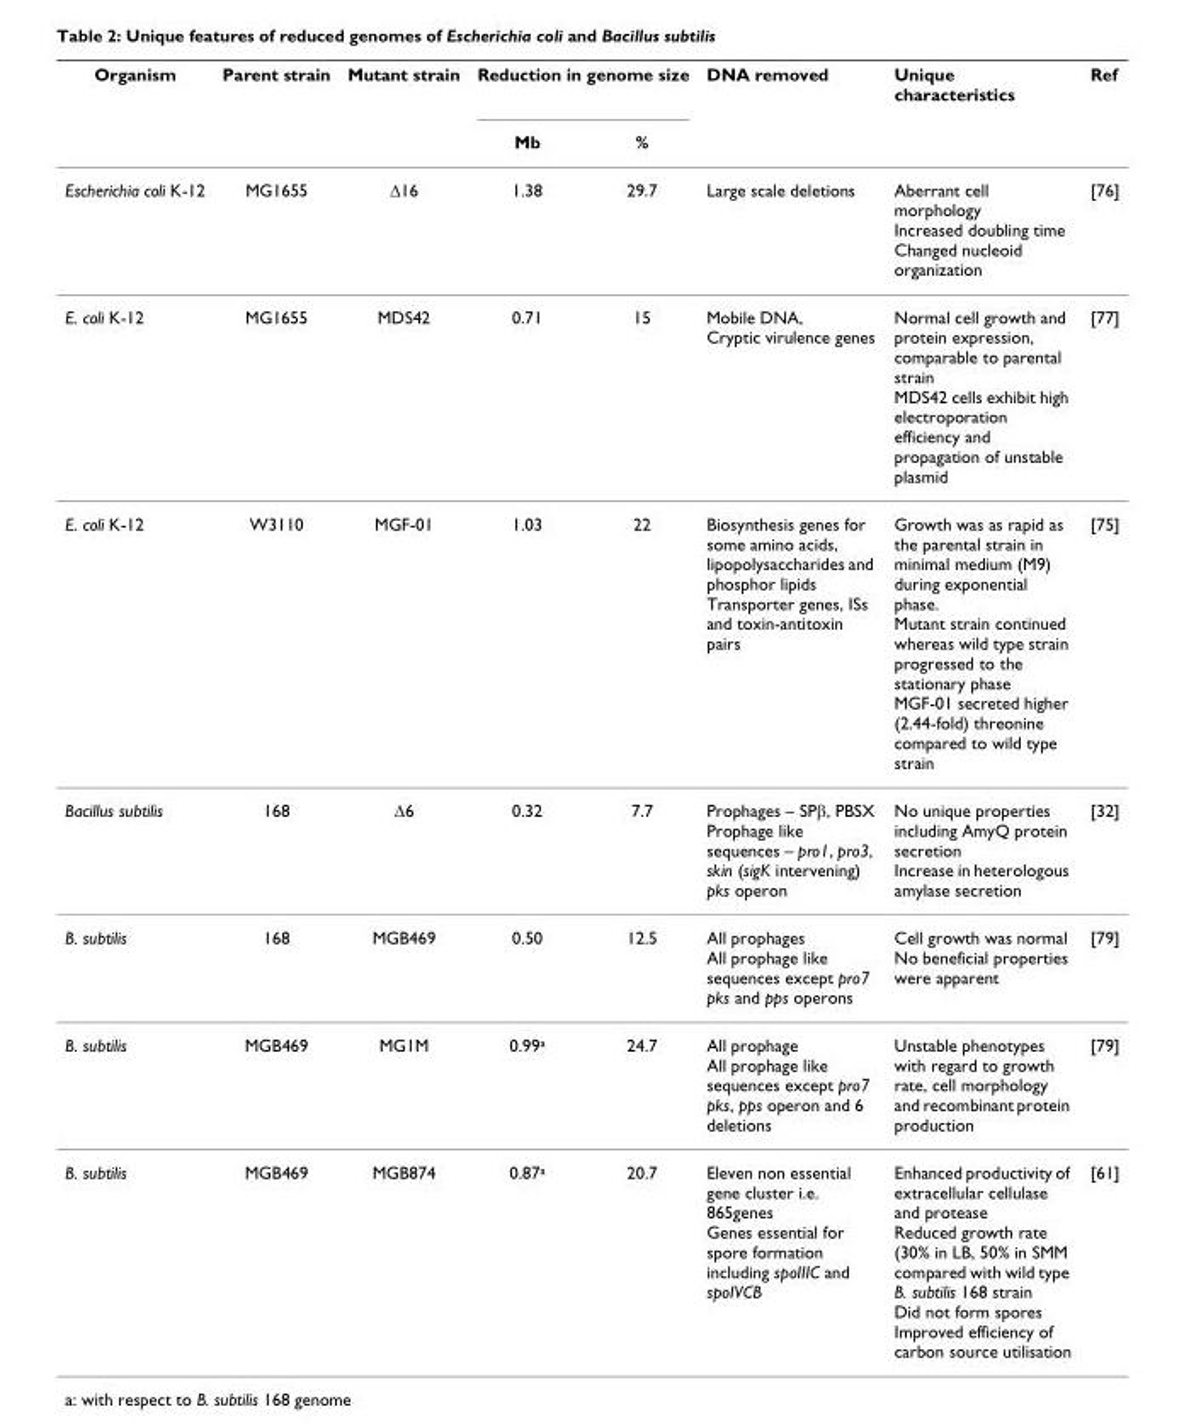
<table><thead><tr><td rowspan="2">Organism</td><td rowspan="2">Parent strain</td><td rowspan="2">Mutant strain</td><td colspan="2">Reduction in genome size</td><td rowspan="2">DNA removed</td><td rowspan="2">Unique characteristics</td><td rowspan="2">Ref</td></tr><tr><td>Mb</td><td>%</td></tr></thead><tbody><tr><td>Escherichia coli K-12</td><td>MG1655</td><td>Δ16</td><td>1.38</td><td>29.7</td><td>Large scale deletions</td><td>Aberrant cell morphology Increased doubling time Changed nucleoid organization</td><td>[76]</td></tr><tr><td>E. coli K-12</td><td>MG1655</td><td>MDS42</td><td>0.71</td><td>15</td><td>Mobile DNA, Cryptic virulence genes</td><td>Normal cell growth and protein expression, comparable to parental strain MDS42 cells exhibit high electroporation efficiency and propagation of unstable plasmid</td><td>[77]</td></tr><tr><td>E. coli K-12</td><td>W3110</td><td>MGF-01</td><td>1.03</td><td>22</td><td>Biosynthesis genes for some amino acids, lipopolysaccharides and phosphor lipids Transporter genes, ISs and toxin-antitoxin pairs</td><td>Growth was as rapid as the parental strain in minimal medium (M9) during exponential phase. Mutant strain continued whereas wild type strain progressed to the stationary phase MGF-01 secreted higher (2.44-fold) threonine compared to wild type strain</td><td>[75]</td></tr><tr><td>Bacillus subtilis</td><td>168</td><td>Δ6</td><td>0.32</td><td>7.7</td><td>Prophages – SPβ, PBSX Prophage like sequences – pro1, pro3, skin (sigK intervening) pks operon</td><td>No unique properties including AmyQ protein secretion Increase in heterologous amylase secretion</td><td>[32]</td></tr><tr><td>B. subtilis</td><td>168</td><td>MGB469</td><td>0.50</td><td>12.5</td><td>All prophages All prophage like sequences except pro7 pks and pps operons</td><td>Cell growth was normal No beneficial properties were apparent</td><td>[79]</td></tr><tr><td>B. subtilis</td><td>MGB469</td><td>MG1M</td><td>0.99<sup>a</sup></td><td>24.7</td><td>All prophage All prophage like sequences except pro7 pks, pps operon and 6 deletions</td><td>Unstable phenotypes with regard to growth rate, cell morphology and recombinant protein production</td><td>[79]</td></tr><tr><td>B. subtilis</td><td>MGB469</td><td>MGB874</td><td>0.87<sup>a</sup></td><td>20.7</td><td>Eleven non essential gene cluster i.e. 865genes Genes essential for spore formation including spoIIIC and spoIVCB</td><td>Enhanced productivity of extracellular cellulase and protease Reduced growth rate (30% in LB, 50% in SMM compared with wild type B. subtilis 168 strain Did not form spores Improved efficiency of carbon source utilisation</td><td>[61]</td></tr></tbody></table>